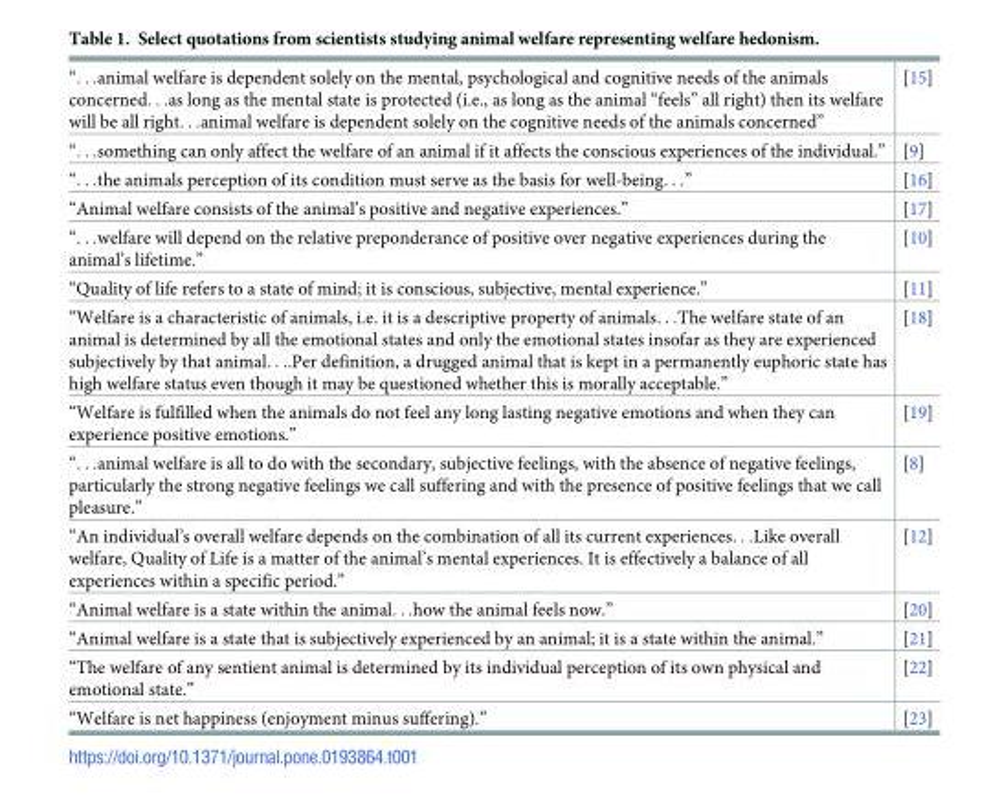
<table><tbody><tr><td>“. . .animal welfare is dependent solely on the mental, psychological and cognitive needs of the animals concerned. . .as long as the mental state is protected (i.e., as long as the animal “feels” all right) then its welfare will be all right. . .animal welfare is dependent solely on the cognitive needs of the animals concerned”</td><td>[15]</td></tr><tr><td>“. . .something can only affect the welfare of an animal if it affects the conscious experiences of the individual.”</td><td>[9]</td></tr><tr><td>“. . .the animals perception of its condition must serve as the basis for well-being. . .”</td><td>[16]</td></tr><tr><td>“Animal welfare consists of the animal’s positive and negative experiences.”</td><td>[17]</td></tr><tr><td>“. . .welfare will depend on the relative preponderance of positive over negative experiences during the animal’s lifetime.”</td><td>[10]</td></tr><tr><td>“Quality of life refers to a state of mind; it is conscious, subjective, mental experience.”</td><td>[11]</td></tr><tr><td>“Welfare is a characteristic of animals, i.e. it is a descriptive property of animals. . .The welfare state of an animal is determined by all the emotional states and only the emotional states insofar as they are experienced subjectively by that animal. . ..Per definition, a drugged animal that is kept in a permanently euphoric state has high welfare status even though it may be questioned whether this is morally acceptable.”</td><td>[18]</td></tr><tr><td>“Welfare is fulfilled when the animals do not feel any long lasting negative emotions and when they can experience positive emotions.”</td><td>[19]</td></tr><tr><td>“. . .animal welfare is all to do with the secondary, subjective feelings, with the absence of negative feelings, particularly the strong negative feelings we call suffering and with the presence of positive feelings that we call pleasure.”</td><td>[8]</td></tr><tr><td>“An individual’s overall welfare depends on the combination of all its current experiences. . .Like overall welfare, Quality of Life is a matter of the animal’s mental experiences. It is effectively a balance of all experiences within a specific period.”</td><td>[12]</td></tr><tr><td>“Animal welfare is a state within the animal. . .how the animal feels now.”</td><td>[20]</td></tr><tr><td>“Animal welfare is a state that is subjectively experienced by an animal; it is a state within the animal.”</td><td>[21]</td></tr><tr><td>“The welfare of any sentient animal is determined by its individual perception of its own physical and emotional state.”</td><td>[22]</td></tr><tr><td>“Welfare is net happiness (enjoyment minus suffering).”</td><td>[23]</td></tr></tbody></table>